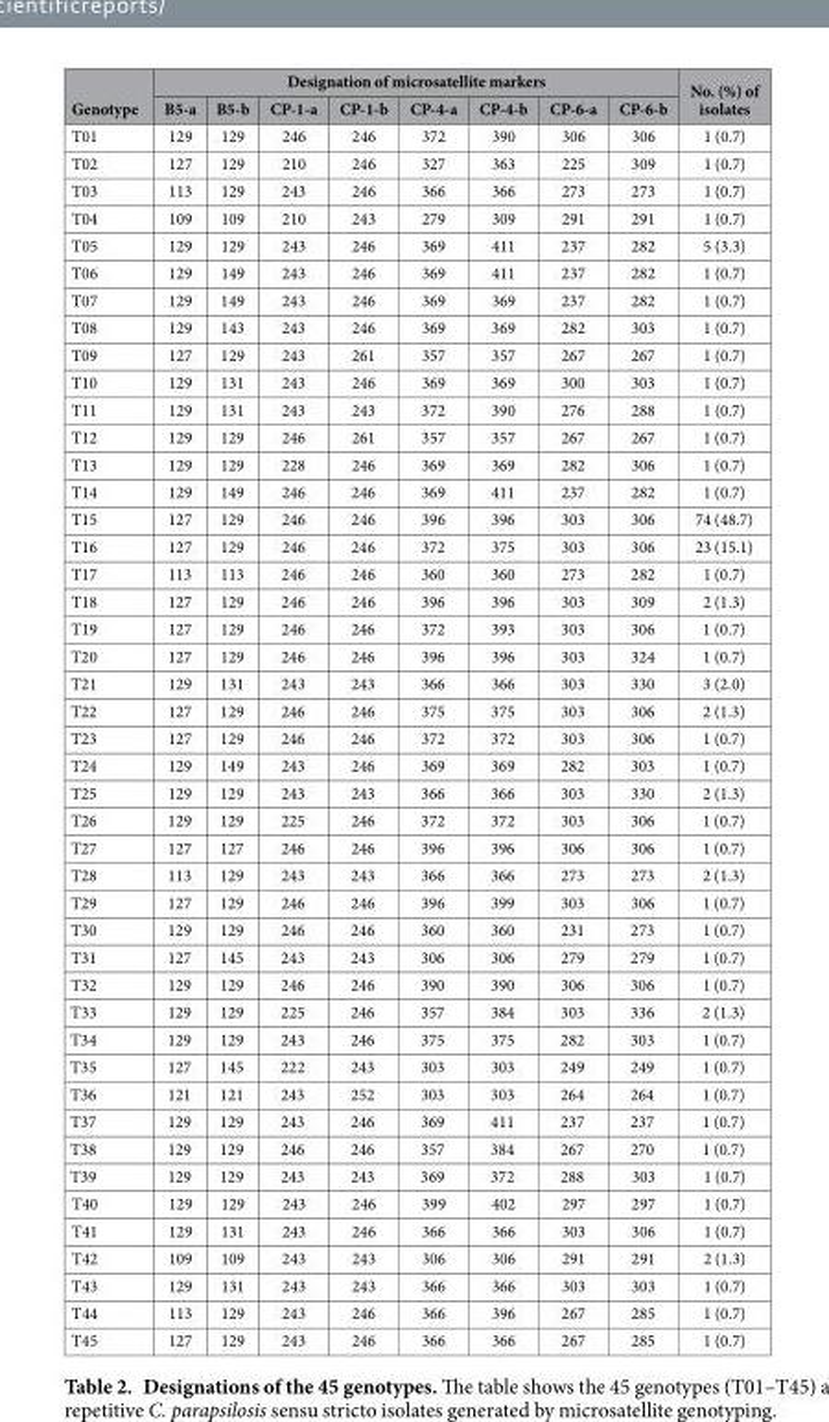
<table><thead><tr><td rowspan="2">Genotype</td><td colspan="8">Designation of microsatellite markers</td><td rowspan="2">No. (%) of isolates</td></tr><tr><td>B5-a</td><td>B5-b</td><td>CP-1-a</td><td>CP-1-b</td><td>CP-4-a</td><td>CP-4-b</td><td>CP-6-a</td><td>CP-6-b</td></tr></thead><tbody><tr><td>T01</td><td>129</td><td>129</td><td>246</td><td>246</td><td>372</td><td>390</td><td>306</td><td>306</td><td>1 (0.7)</td></tr><tr><td>T02</td><td>127</td><td>129</td><td>210</td><td>246</td><td>327</td><td>363</td><td>225</td><td>309</td><td>1 (0.7)</td></tr><tr><td>T03</td><td>113</td><td>129</td><td>243</td><td>246</td><td>366</td><td>366</td><td>273</td><td>273</td><td>1 (0.7)</td></tr><tr><td>T04</td><td>109</td><td>109</td><td>210</td><td>243</td><td>279</td><td>309</td><td>291</td><td>291</td><td>1 (0.7)</td></tr><tr><td>T05</td><td>129</td><td>129</td><td>243</td><td>246</td><td>369</td><td>411</td><td>237</td><td>282</td><td>5 (3.3)</td></tr><tr><td>T06</td><td>129</td><td>149</td><td>243</td><td>246</td><td>369</td><td>411</td><td>237</td><td>282</td><td>1 (0.7)</td></tr><tr><td>T07</td><td>129</td><td>149</td><td>243</td><td>246</td><td>369</td><td>369</td><td>237</td><td>282</td><td>1 (0.7)</td></tr><tr><td>T08</td><td>129</td><td>143</td><td>243</td><td>246</td><td>369</td><td>369</td><td>282</td><td>303</td><td>1 (0.7)</td></tr><tr><td>T09</td><td>127</td><td>129</td><td>243</td><td>261</td><td>357</td><td>357</td><td>267</td><td>267</td><td>1 (0.7)</td></tr><tr><td>T10</td><td>129</td><td>131</td><td>243</td><td>246</td><td>369</td><td>369</td><td>300</td><td>303</td><td>1 (0.7)</td></tr><tr><td>T11</td><td>129</td><td>131</td><td>243</td><td>243</td><td>372</td><td>390</td><td>276</td><td>288</td><td>1 (0.7)</td></tr><tr><td>T12</td><td>129</td><td>129</td><td>246</td><td>261</td><td>357</td><td>357</td><td>267</td><td>267</td><td>1 (0.7)</td></tr><tr><td>T13</td><td>129</td><td>129</td><td>228</td><td>246</td><td>369</td><td>369</td><td>282</td><td>306</td><td>1 (0.7)</td></tr><tr><td>T14</td><td>129</td><td>149</td><td>246</td><td>246</td><td>369</td><td>411</td><td>237</td><td>282</td><td>1 (0.7)</td></tr><tr><td>T15</td><td>127</td><td>129</td><td>246</td><td>246</td><td>396</td><td>396</td><td>303</td><td>306</td><td>74 (48.7)</td></tr><tr><td>T16</td><td>127</td><td>129</td><td>246</td><td>246</td><td>372</td><td>375</td><td>303</td><td>306</td><td>23 (15.1)</td></tr><tr><td>T17</td><td>113</td><td>113</td><td>246</td><td>246</td><td>360</td><td>360</td><td>273</td><td>282</td><td>1 (0.7)</td></tr><tr><td>T18</td><td>127</td><td>129</td><td>246</td><td>246</td><td>396</td><td>396</td><td>303</td><td>309</td><td>2 (1.3)</td></tr><tr><td>T19</td><td>127</td><td>129</td><td>246</td><td>246</td><td>372</td><td>393</td><td>303</td><td>306</td><td>1 (0.7)</td></tr><tr><td>T20</td><td>127</td><td>129</td><td>246</td><td>246</td><td>396</td><td>396</td><td>303</td><td>324</td><td>1 (0.7)</td></tr><tr><td>T21</td><td>129</td><td>131</td><td>243</td><td>243</td><td>366</td><td>366</td><td>303</td><td>330</td><td>3 (2.0)</td></tr><tr><td>T22</td><td>127</td><td>129</td><td>246</td><td>246</td><td>375</td><td>375</td><td>303</td><td>306</td><td>2 (1.3)</td></tr><tr><td>T23</td><td>127</td><td>129</td><td>246</td><td>246</td><td>372</td><td>372</td><td>303</td><td>306</td><td>1 (0.7)</td></tr><tr><td>T24</td><td>129</td><td>149</td><td>243</td><td>246</td><td>369</td><td>369</td><td>282</td><td>303</td><td>1 (0.7)</td></tr><tr><td>T25</td><td>129</td><td>129</td><td>243</td><td>243</td><td>366</td><td>366</td><td>303</td><td>330</td><td>2 (1.3)</td></tr><tr><td>T26</td><td>129</td><td>129</td><td>225</td><td>246</td><td>372</td><td>372</td><td>303</td><td>306</td><td>1 (0.7)</td></tr><tr><td>T27</td><td>127</td><td>127</td><td>246</td><td>246</td><td>396</td><td>396</td><td>306</td><td>306</td><td>1 (0.7)</td></tr><tr><td>T28</td><td>113</td><td>129</td><td>243</td><td>243</td><td>366</td><td>366</td><td>273</td><td>273</td><td>2 (1.3)</td></tr><tr><td>T29</td><td>127</td><td>129</td><td>246</td><td>246</td><td>396</td><td>399</td><td>303</td><td>306</td><td>1 (0.7)</td></tr><tr><td>T30</td><td>129</td><td>129</td><td>246</td><td>246</td><td>360</td><td>360</td><td>231</td><td>273</td><td>1 (0.7)</td></tr><tr><td>T31</td><td>127</td><td>145</td><td>243</td><td>243</td><td>306</td><td>306</td><td>279</td><td>279</td><td>1 (0.7)</td></tr><tr><td>T32</td><td>129</td><td>129</td><td>246</td><td>246</td><td>390</td><td>390</td><td>306</td><td>306</td><td>1 (0.7)</td></tr><tr><td>T33</td><td>129</td><td>129</td><td>225</td><td>246</td><td>357</td><td>384</td><td>303</td><td>336</td><td>2 (1.3)</td></tr><tr><td>T34</td><td>129</td><td>129</td><td>243</td><td>246</td><td>375</td><td>375</td><td>282</td><td>303</td><td>1 (0.7)</td></tr><tr><td>T35</td><td>127</td><td>145</td><td>222</td><td>243</td><td>303</td><td>303</td><td>249</td><td>249</td><td>1 (0.7)</td></tr><tr><td>T36</td><td>121</td><td>121</td><td>243</td><td>252</td><td>303</td><td>303</td><td>264</td><td>264</td><td>1 (0.7)</td></tr><tr><td>T37</td><td>129</td><td>129</td><td>243</td><td>246</td><td>369</td><td>411</td><td>237</td><td>237</td><td>1 (0.7)</td></tr><tr><td>T38</td><td>129</td><td>129</td><td>246</td><td>246</td><td>357</td><td>384</td><td>267</td><td>270</td><td>1 (0.7)</td></tr><tr><td>T39</td><td>129</td><td>129</td><td>243</td><td>243</td><td>369</td><td>372</td><td>288</td><td>303</td><td>1 (0.7)</td></tr><tr><td>T40</td><td>129</td><td>129</td><td>243</td><td>246</td><td>399</td><td>402</td><td>297</td><td>297</td><td>1 (0.7)</td></tr><tr><td>T41</td><td>129</td><td>131</td><td>243</td><td>246</td><td>366</td><td>366</td><td>303</td><td>306</td><td>1 (0.7)</td></tr><tr><td>T42</td><td>109</td><td>109</td><td>243</td><td>243</td><td>306</td><td>306</td><td>291</td><td>291</td><td>2 (1.3)</td></tr><tr><td>T43</td><td>129</td><td>131</td><td>243</td><td>243</td><td>366</td><td>366</td><td>303</td><td>303</td><td>1 (0.7)</td></tr><tr><td>T44</td><td>113</td><td>129</td><td>243</td><td>246</td><td>366</td><td>396</td><td>267</td><td>285</td><td>1 (0.7)</td></tr><tr><td>T45</td><td>127</td><td>129</td><td>243</td><td>246</td><td>366</td><td>366</td><td>267</td><td>285</td><td>1 (0.7)</td></tr></tbody></table>